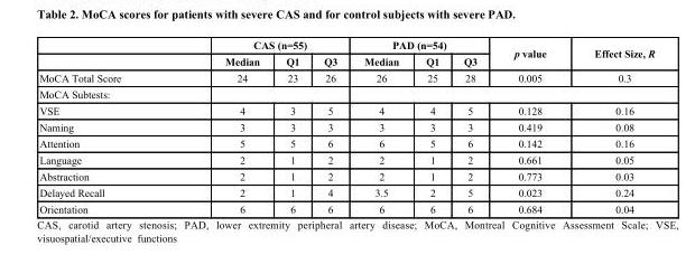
<table><thead><tr><td rowspan="2"></td><td colspan="3">CAS (n=55)</td><td colspan="3">PAD (n=54)</td><td rowspan="2">p value</td><td rowspan="2">Effect Size, R</td></tr><tr><td>Median</td><td>Q1</td><td>Q3</td><td>Median</td><td>Q1</td><td>Q3</td></tr></thead><tbody><tr><td>MoCA Total Score</td><td>24</td><td>23</td><td>26</td><td>26</td><td>25</td><td>28</td><td>0.005</td><td>0.3</td></tr><tr><td colspan="9">MoCA Subtests:</td></tr><tr><td>VSE</td><td>4</td><td>3</td><td>5</td><td>4</td><td>4</td><td>5</td><td>0.128</td><td>0.16</td></tr><tr><td>Naming</td><td>3</td><td>3</td><td>3</td><td>3</td><td>3</td><td>3</td><td>0.419</td><td>0.08</td></tr><tr><td>Attention</td><td>5</td><td>5</td><td>6</td><td>6</td><td>5</td><td>6</td><td>0.142</td><td>0.16</td></tr><tr><td>Language</td><td>2</td><td>1</td><td>2</td><td>2</td><td>1</td><td>2</td><td>0.661</td><td>0.05</td></tr><tr><td>Abstraction</td><td>2</td><td>1</td><td>2</td><td>2</td><td>1</td><td>2</td><td>0.773</td><td>0.03</td></tr><tr><td>Delayed Recall</td><td>2</td><td>1</td><td>4</td><td>3.5</td><td>2</td><td>5</td><td>0.023</td><td>0.24</td></tr><tr><td>Orientation</td><td>6</td><td>6</td><td>6</td><td>6</td><td>6</td><td>6</td><td>0.684</td><td>0.04</td></tr></tbody></table>